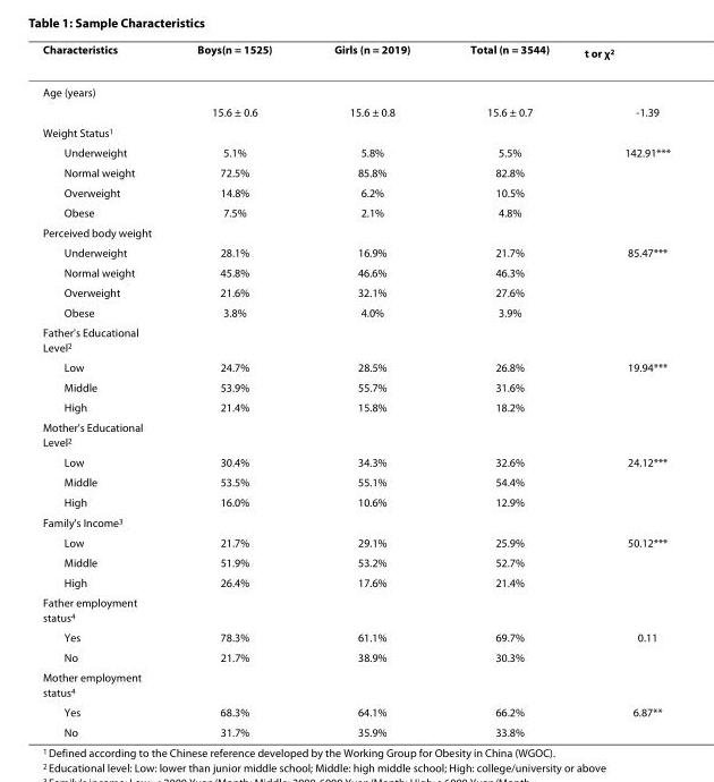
<table><thead><tr><td>Characteristics</td><td>Boys(n = 1525)</td><td>Girls (n = 2019)</td><td>Total (n = 3544)</td><td>t or χ<sup>2</sup></td></tr></thead><tbody><tr><td colspan="5">Age (years)</td></tr><tr><td></td><td>15.6 ± 0.6</td><td>15.6 ± 0.8</td><td>15.6 ± 0.7</td><td>-1.39</td></tr><tr><td colspan="5">Weight Status<sup>1</sup></td></tr><tr><td>Underweight</td><td>5.1%</td><td>5.8%</td><td>5.5%</td><td>142.91***</td></tr><tr><td>Normal weight</td><td>72.5%</td><td>85.8%</td><td>82.8%</td><td></td></tr><tr><td>Overweight</td><td>14.8%</td><td>6.2%</td><td>10.5%</td><td></td></tr><tr><td>Obese</td><td>7.5%</td><td>2.1%</td><td>4.8%</td><td></td></tr><tr><td colspan="5">Perceived body weight</td></tr><tr><td>Underweight</td><td>28.1%</td><td>16.9%</td><td>21.7%</td><td>85.47***</td></tr><tr><td>Normal weight</td><td>45.8%</td><td>46.6%</td><td>46.3%</td><td></td></tr><tr><td>Overweight</td><td>21.6%</td><td>32.1%</td><td>27.6%</td><td></td></tr><tr><td>Obese</td><td>3.8%</td><td>4.0%</td><td>3.9%</td><td></td></tr><tr><td colspan="5">Father&#x27;s Educational Level<sup>2</sup></td></tr><tr><td>Low</td><td>24.7%</td><td>28.5%</td><td>26.8%</td><td>19.94***</td></tr><tr><td>Middle</td><td>53.9%</td><td>55.7%</td><td>31.6%</td><td></td></tr><tr><td>High</td><td>21.4%</td><td>15.8%</td><td>18.2%</td><td></td></tr><tr><td colspan="5">Mother&#x27;s Educational Level<sup>2</sup></td></tr><tr><td>Low</td><td>30.4%</td><td>34.3%</td><td>32.6%</td><td>24.12***</td></tr><tr><td>Middle</td><td>53.5%</td><td>55.1%</td><td>54.4%</td><td></td></tr><tr><td>High</td><td>16.0%</td><td>10.6%</td><td>12.9%</td><td></td></tr><tr><td colspan="5">Family&#x27;s Income<sup>3</sup></td></tr><tr><td>Low</td><td>21.7%</td><td>29.1%</td><td>25.9%</td><td>50.12***</td></tr><tr><td>Middle</td><td>51.9%</td><td>53.2%</td><td>52.7%</td><td></td></tr><tr><td>High</td><td>26.4%</td><td>17.6%</td><td>21.4%</td><td></td></tr><tr><td colspan="5">Father employment status<sup>4</sup></td></tr><tr><td>Yes</td><td>78.3%</td><td>61.1%</td><td>69.7%</td><td>0.11</td></tr><tr><td>No</td><td>21.7%</td><td>38.9%</td><td>30.3%</td><td></td></tr><tr><td colspan="5">Mother employment status<sup>4</sup></td></tr><tr><td>Yes</td><td>68.3%</td><td>64.1%</td><td>66.2%</td><td>6.87**</td></tr><tr><td>No</td><td>31.7%</td><td>35.9%</td><td>33.8%</td><td></td></tr></tbody></table>